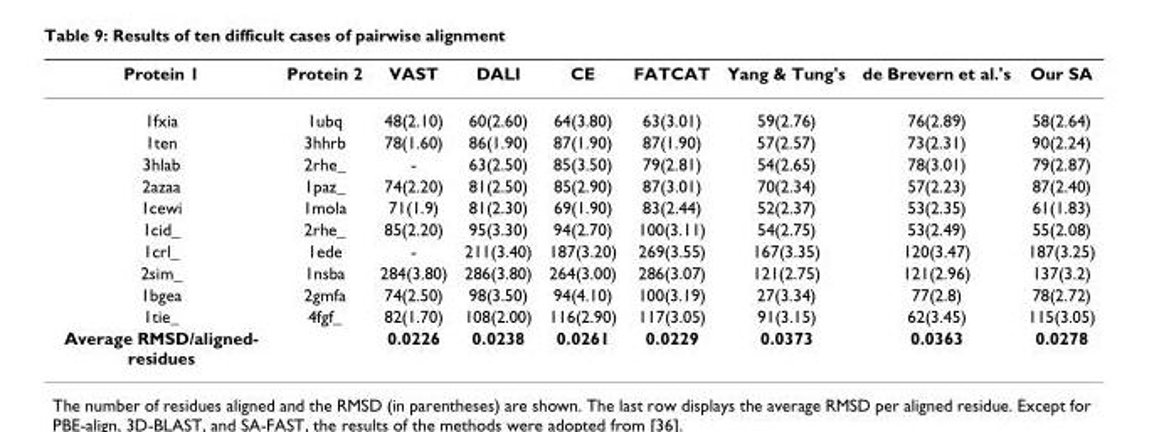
<table><thead><tr><td>Protein 1</td><td>Protein 2</td><td>VAST</td><td>DALI</td><td>CE</td><td>FATCAT</td><td>Yang &amp; Tung&#x27;s</td><td>de Brevern et al.&#x27;s</td><td>Our SA</td></tr></thead><tbody><tr><td>1fxia</td><td>1ubq</td><td>48(2.10)</td><td>60(2.60)</td><td>64(3.80)</td><td>63(3.01)</td><td>59(2.76)</td><td>76(2.89)</td><td>58(2.64)</td></tr><tr><td>1ten</td><td>3hhrb</td><td>78(1.60)</td><td>86(1.90)</td><td>87(1.90)</td><td>87(1.90)</td><td>57(2.57)</td><td>73(2.31)</td><td>90(2.24)</td></tr><tr><td>3hlab</td><td>2rhe_</td><td>-</td><td>63(2.50)</td><td>85(3.50)</td><td>79(2.81)</td><td>54(2.65)</td><td>78(3.01)</td><td>79(2.87)</td></tr><tr><td>2azaa</td><td>1paz_</td><td>74(2.20)</td><td>81(2.50)</td><td>85(2.90)</td><td>87(3.01)</td><td>70(2.34)</td><td>57(2.23)</td><td>87(2.40)</td></tr><tr><td>1cewi</td><td>1mola</td><td>71(1.9)</td><td>81(2.30)</td><td>69(1.90)</td><td>83(2.44)</td><td>52(2.37)</td><td>53(2.35)</td><td>61(1.83)</td></tr><tr><td>1cid_</td><td>2rhe_</td><td>85(2.20)</td><td>95(3.30)</td><td>94(2.70)</td><td>100(3.11)</td><td>54(2.75)</td><td>53(2.49)</td><td>55(2.08)</td></tr><tr><td>1crl_</td><td>1ede</td><td>-</td><td>211(3.40)</td><td>187(3.20)</td><td>269(3.55)</td><td>167(3.35)</td><td>120(3.47)</td><td>187(3.25)</td></tr><tr><td>2sim_</td><td>1nsba</td><td>284(3.80)</td><td>286(3.80)</td><td>264(3.00)</td><td>286(3.07)</td><td>121(2.75)</td><td>121(2.96)</td><td>137(3.2)</td></tr><tr><td>1bgea</td><td>2gmfa</td><td>74(2.50)</td><td>98(3.50)</td><td>94(4.10)</td><td>100(3.19)</td><td>27(3.34)</td><td>77(2.8)</td><td>78(2.72)</td></tr><tr><td>1tie_</td><td>4fgf_</td><td>82(1.70)</td><td>108(2.00)</td><td>116(2.90)</td><td>117(3.05)</td><td>91(3.15)</td><td>62(3.45)</td><td>115(3.05)</td></tr><tr><td>Average RMSD/aligned- residues</td><td></td><td>0.0226</td><td>0.0238</td><td>0.0261</td><td>0.0229</td><td>0.0373</td><td>0.0363</td><td>0.0278</td></tr></tbody></table>